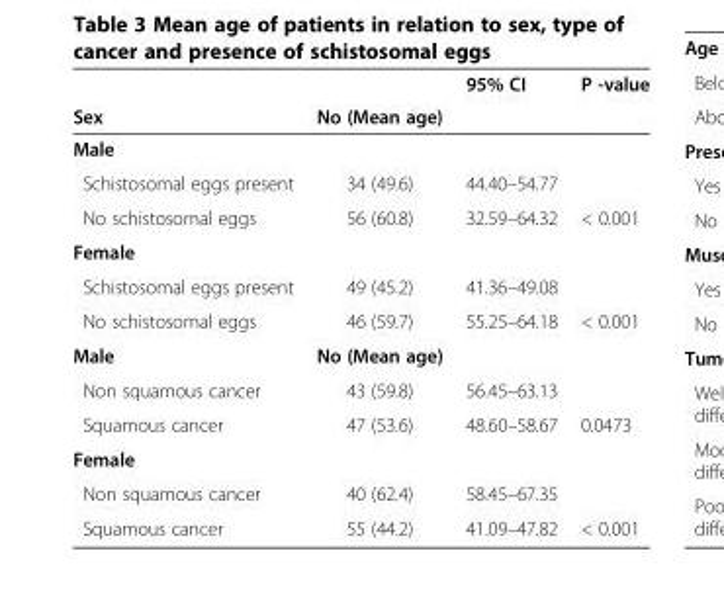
<table><thead><tr><td rowspan="2">Sex</td><td rowspan="2">No (Mean age)</td><td rowspan="2">95% CI</td><td rowspan="2">P -value</td></tr><tr></tr></thead><tbody><tr><td colspan="4">Male</td></tr><tr><td>Schistosomal eggs present</td><td>34 (49.6)</td><td>44.40–54.77</td><td></td></tr><tr><td>No schistosomal eggs</td><td>56 (60.8)</td><td>32.59–64.32</td><td>&lt; 0.001</td></tr><tr><td colspan="4">Female</td></tr><tr><td>Schistosomal eggs present</td><td>49 (45.2)</td><td>41.36–49.08</td><td></td></tr><tr><td>No schistosomal eggs</td><td>46 (59.7)</td><td>55.25–64.18</td><td>&lt; 0.001</td></tr><tr><td>Male</td><td>No (Mean age)</td><td></td><td></td></tr><tr><td>Non squamous cancer</td><td>43 (59.8)</td><td>56.45–63.13</td><td></td></tr><tr><td>Squamous cancer</td><td>47 (53.6)</td><td>48.60–58.67</td><td>0.0473</td></tr><tr><td colspan="4">Female</td></tr><tr><td>Non squamous cancer</td><td>40 (62.4)</td><td>58.45–67.35</td><td></td></tr><tr><td>Squamous cancer</td><td>55 (44.2)</td><td>41.09–47.82</td><td>&lt; 0.001</td></tr></tbody></table>